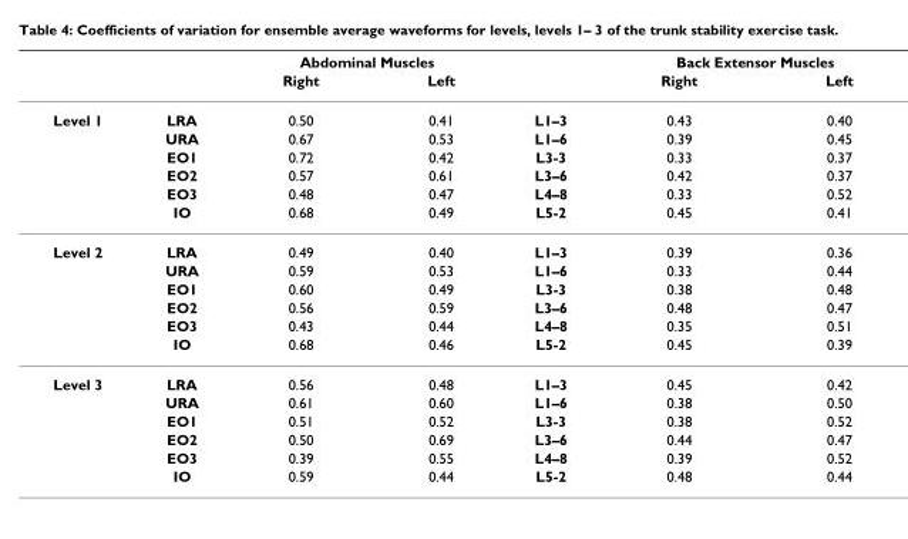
<table><thead><tr><td rowspan="2"></td><td rowspan="2"></td><td colspan="2">Abdominal Muscles</td><td rowspan="2"></td><td colspan="2">Back Extensor Muscles</td></tr><tr><td>Right</td><td>Left</td><td>Right</td><td>Left</td></tr></thead><tbody><tr><td rowspan="6">Level 1</td><td>LRA</td><td>0.50</td><td>0.41</td><td>L1–3</td><td>0.43</td><td>0.40</td></tr><tr><td>URA</td><td>0.67</td><td>0.53</td><td>L1–6</td><td>0.39</td><td>0.45</td></tr><tr><td>EO1</td><td>0.72</td><td>0.42</td><td>L3-3</td><td>0.33</td><td>0.37</td></tr><tr><td>EO2</td><td>0.57</td><td>0.61</td><td>L3–6</td><td>0.42</td><td>0.37</td></tr><tr><td>EO3</td><td>0.48</td><td>0.47</td><td>L4–8</td><td>0.33</td><td>0.52</td></tr><tr><td>IO</td><td>0.68</td><td>0.49</td><td>L5-2</td><td>0.45</td><td>0.41</td></tr><tr><td rowspan="6">Level 2</td><td>LRA</td><td>0.49</td><td>0.40</td><td>L1–3</td><td>0.39</td><td>0.36</td></tr><tr><td>URA</td><td>0.59</td><td>0.53</td><td>L1–6</td><td>0.33</td><td>0.44</td></tr><tr><td>EO1</td><td>0.60</td><td>0.49</td><td>L3-3</td><td>0.38</td><td>0.48</td></tr><tr><td>EO2</td><td>0.56</td><td>0.59</td><td>L3–6</td><td>0.48</td><td>0.47</td></tr><tr><td>EO3</td><td>0.43</td><td>0.44</td><td>L4–8</td><td>0.35</td><td>0.51</td></tr><tr><td>IO</td><td>0.68</td><td>0.46</td><td>L5-2</td><td>0.45</td><td>0.39</td></tr><tr><td rowspan="6">Level 3</td><td>LRA</td><td>0.56</td><td>0.48</td><td>L1–3</td><td>0.45</td><td>0.42</td></tr><tr><td>URA</td><td>0.61</td><td>0.60</td><td>L1–6</td><td>0.38</td><td>0.50</td></tr><tr><td>EO1</td><td>0.51</td><td>0.52</td><td>L3-3</td><td>0.38</td><td>0.52</td></tr><tr><td>EO2</td><td>0.50</td><td>0.69</td><td>L3–6</td><td>0.44</td><td>0.47</td></tr><tr><td>EO3</td><td>0.39</td><td>0.55</td><td>L4–8</td><td>0.39</td><td>0.52</td></tr><tr><td>IO</td><td>0.59</td><td>0.44</td><td>L5-2</td><td>0.48</td><td>0.44</td></tr></tbody></table>